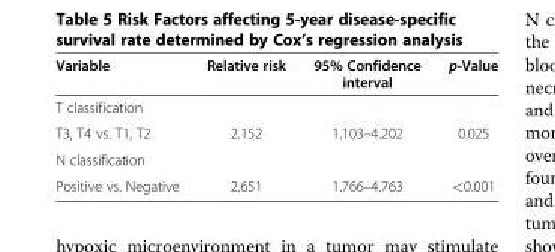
<table><thead><tr><td>Variable</td><td>Relative risk</td><td>95% Confidence interval</td><td>p-Value</td></tr></thead><tbody><tr><td colspan="4">T classification</td></tr><tr><td>T3, T4 vs. T1, T2</td><td>2.152</td><td>1.103–4.202</td><td>0.025</td></tr><tr><td colspan="4">N classification</td></tr><tr><td>Positive vs. Negative</td><td>2.651</td><td>1.766–4.763</td><td>&lt;0.001</td></tr></tbody></table>